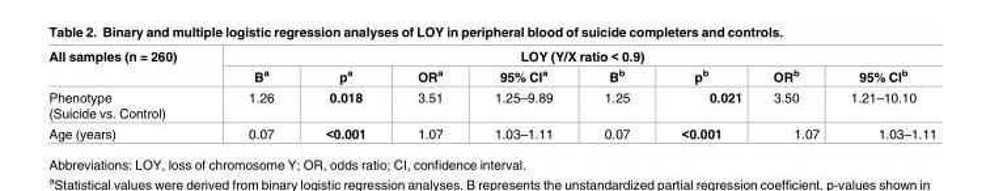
<table><thead><tr><td rowspan="2">All samples (n = 260)</td><td colspan="8">LOY (Y/X ratio &lt; 0.9)</td></tr><tr><td>B<sup>a</sup></td><td>p<sup>a</sup></td><td>OR<sup>a</sup></td><td>95% CI<sup>a</sup></td><td>B<sup>b</sup></td><td>p<sup>b</sup></td><td>OR<sup>b</sup></td><td>95% CI<sup>b</sup></td></tr></thead><tbody><tr><td>Phenotype (Suicide vs. Control)</td><td>1.26</td><td>0.018</td><td>3.51</td><td>1.25–9.89</td><td>1.25</td><td>0.021</td><td>3.50</td><td>1.21–10.10</td></tr><tr><td>Age (years)</td><td>0.07</td><td>&lt;0.001</td><td>1.07</td><td>1.03–1.11</td><td>0.07</td><td>&lt;0.001</td><td>1.07</td><td>1.03–1.11</td></tr></tbody></table>